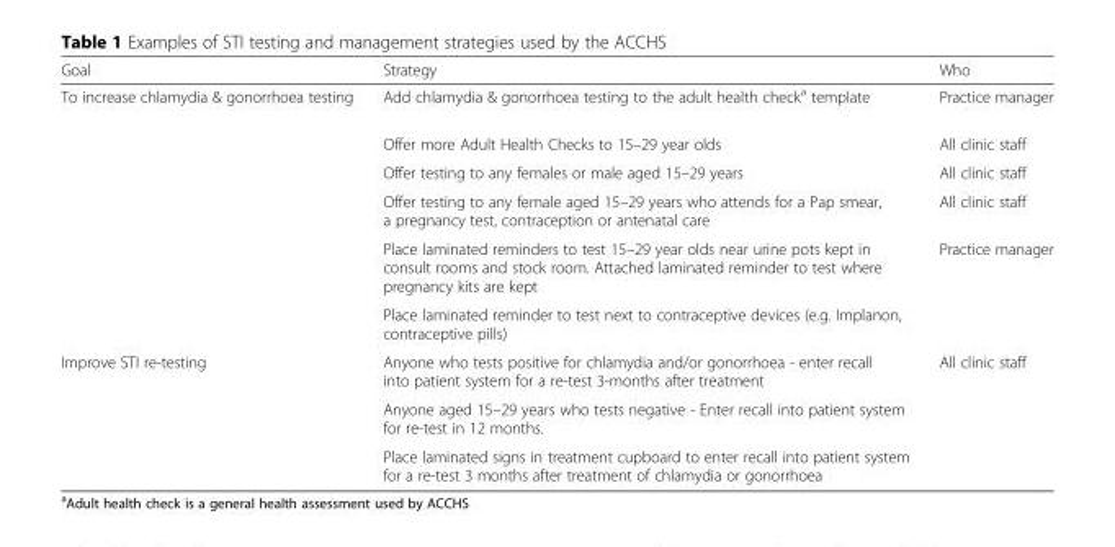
<table><thead><tr><td>Goal</td><td>Strategy</td><td>Who</td></tr></thead><tbody><tr><td rowspan="6">To increase chlamydia &amp; gonorrhoea testing</td><td>Add chlamydia &amp; gonorrhoea testing to the adult health check<sup>a</sup> template</td><td>Practice manager</td></tr><tr><td>Offer more Adult Health Checks to 15–29 year olds</td><td>All clinic staff</td></tr><tr><td>Offer testing to any females or male aged 15–29 years</td><td>All clinic staff</td></tr><tr><td>Offer testing to any female aged 15–29 years who attends for a Pap smear, a pregnancy test, contraception or antenatal care</td><td>All clinic staff</td></tr><tr><td>Place laminated reminders to test 15–29 year olds near urine pots kept in consult rooms and stock room. Attached laminated reminder to test where pregnancy kits are kept</td><td rowspan="2">Practice manager</td></tr><tr><td>Place laminated reminder to test next to contraceptive devices (e.g. Implanon, contraceptive pills)</td></tr><tr><td rowspan="3">Improve STI re-testing</td><td>Anyone who tests positive for chlamydia and/or gonorrhoea - enter recall into patient system for a re-test 3-months after treatment</td><td rowspan="3">All clinic staff</td></tr><tr><td>Anyone aged 15–29 years who tests negative - Enter recall into patient system for re-test in 12 months.</td></tr><tr><td>Place laminated signs in treatment cupboard to enter recall into patient system for a re-test 3 months after treatment of chlamydia or gonorrhoea</td></tr></tbody></table>